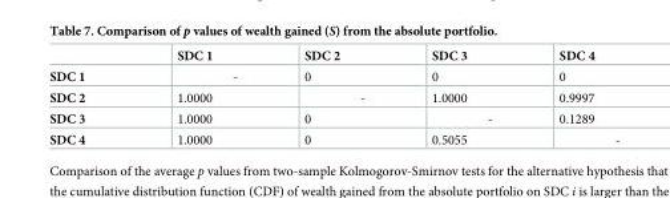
<table><thead><tr><td></td><td>SDC 1</td><td>SDC 2</td><td>SDC 3</td><td>SDC 4</td></tr></thead><tbody><tr><td>SDC 1</td><td>-</td><td>0</td><td>0</td><td>0</td></tr><tr><td>SDC 2</td><td>1.0000</td><td>-</td><td>1.0000</td><td>0.9997</td></tr><tr><td>SDC 3</td><td>1.0000</td><td>0</td><td>-</td><td>0.1289</td></tr><tr><td>SDC 4</td><td>1.0000</td><td>0</td><td>0.5055</td><td>-</td></tr></tbody></table>